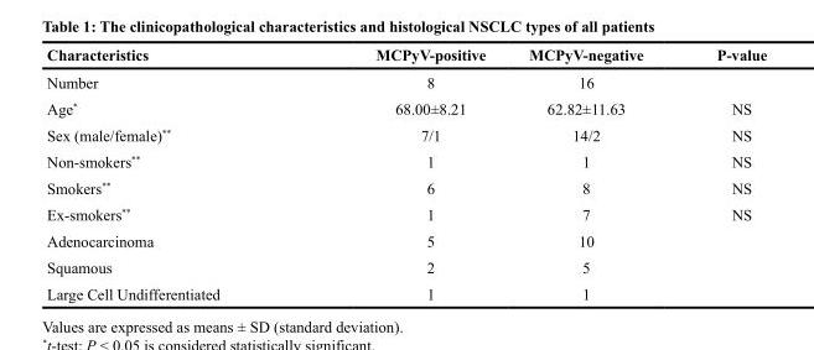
<table><thead><tr><td>Characteristics</td><td>MCPyV-positive</td><td>MCPyV-negative</td><td>P-value</td></tr></thead><tbody><tr><td>Number</td><td>8</td><td>16</td><td></td></tr><tr><td>Age*</td><td>68.00±8.21</td><td>62.82±11.63</td><td>NS</td></tr><tr><td>Sex (male/female)**</td><td>7/1</td><td>14/2</td><td>NS</td></tr><tr><td>Non-smokers**</td><td>1</td><td>1</td><td>NS</td></tr><tr><td>Smokers**</td><td>6</td><td>8</td><td>NS</td></tr><tr><td>Ex-smokers**</td><td>1</td><td>7</td><td>NS</td></tr><tr><td>Adenocarcinoma</td><td>5</td><td>10</td><td></td></tr><tr><td>Squamous</td><td>2</td><td>5</td><td></td></tr><tr><td>Large Cell Undifferentiated</td><td>1</td><td>1</td><td></td></tr></tbody></table>